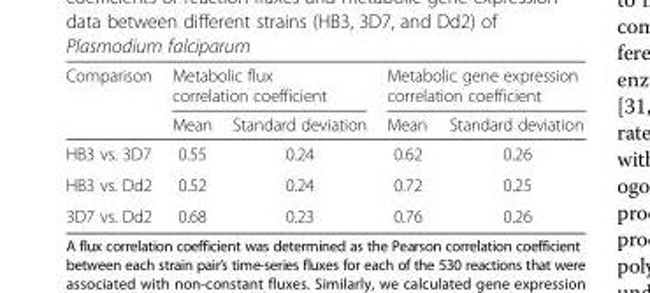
<table><thead><tr><td rowspan="2">Comparison</td><td colspan="2">Metabolic flux correlation coefficient</td><td colspan="2">Metabolic gene expression correlation coefficient</td></tr><tr><td>Mean</td><td>Standard deviation</td><td>Mean</td><td>Standard deviation</td></tr></thead><tbody><tr><td>HB3 vs. 3D7</td><td>0.55</td><td>0.24</td><td>0.62</td><td>0.26</td></tr><tr><td>HB3 vs. Dd2</td><td>0.52</td><td>0.24</td><td>0.72</td><td>0.25</td></tr><tr><td>3D7 vs. Dd2</td><td>0.68</td><td>0.23</td><td>0.76</td><td>0.26</td></tr></tbody></table>